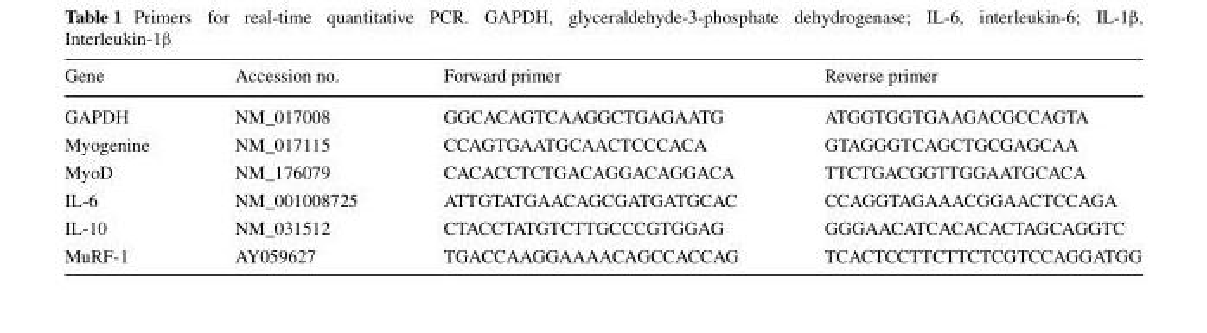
<table><thead><tr><td>Gene</td><td>Accession no.</td><td>Forward primer</td><td>Reverse primer</td></tr></thead><tbody><tr><td>GAPDH</td><td>NM_017008</td><td>GGCACAGTCAAGGCTGAGAATG</td><td>ATGGTGGTGAAGACGCCAGTA</td></tr><tr><td>Myogenine</td><td>NM_017115</td><td>CCAGTGAATGCAACTCCCACA</td><td>GTAGGGTCAGCTGCGAGCAA</td></tr><tr><td>MyoD</td><td>NM_176079</td><td>CACACCTCTGACAGGACAGGACA</td><td>TTCTGACGGTTGGAATGCACA</td></tr><tr><td>IL-6</td><td>NM_001008725</td><td>ATTGTATGAACAGCGATGATGCAC</td><td>CCAGGTAGAAACGGAACTCCAGA</td></tr><tr><td>IL-10</td><td>NM_031512</td><td>CTACCTATGTCTTGCCCGTGGAG</td><td>GGGAACATCACACACTAGCAGGTC</td></tr><tr><td>MuRF-1</td><td>AY059627</td><td>TGACCAAGGAAAACAGCCACCAG</td><td>TCACTCCTTCTTCTCGTCCAGGATGG</td></tr></tbody></table>